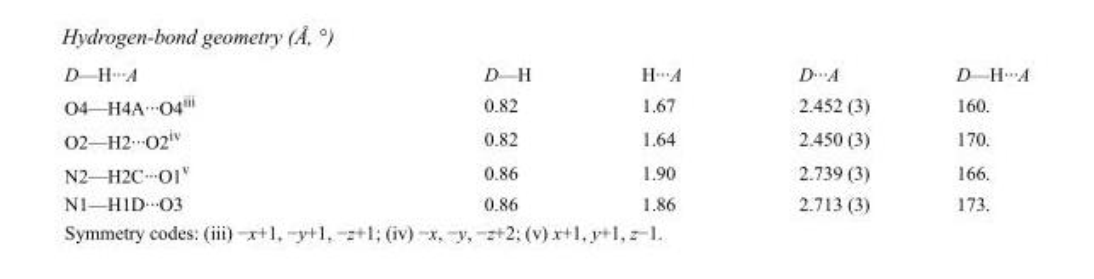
<table><tbody><tr><td>D—H···A</td><td>D—H</td><td>H···A</td><td>D···A</td><td>D—H···A</td></tr><tr><td>O4—H4A···O4<sup>iii</sup></td><td>0.82</td><td>1.67</td><td>2.452 (3)</td><td>160.</td></tr><tr><td>O2—H2···O2<sup>iv</sup></td><td>0.82</td><td>1.64</td><td>2.450 (3)</td><td>170.</td></tr><tr><td>N2—H2C···O1<sup>v</sup></td><td>0.86</td><td>1.90</td><td>2.739 (3)</td><td>166.</td></tr><tr><td>N1—H1D···O3</td><td>0.86</td><td>1.86</td><td>2.713 (3)</td><td>173.</td></tr></tbody></table>